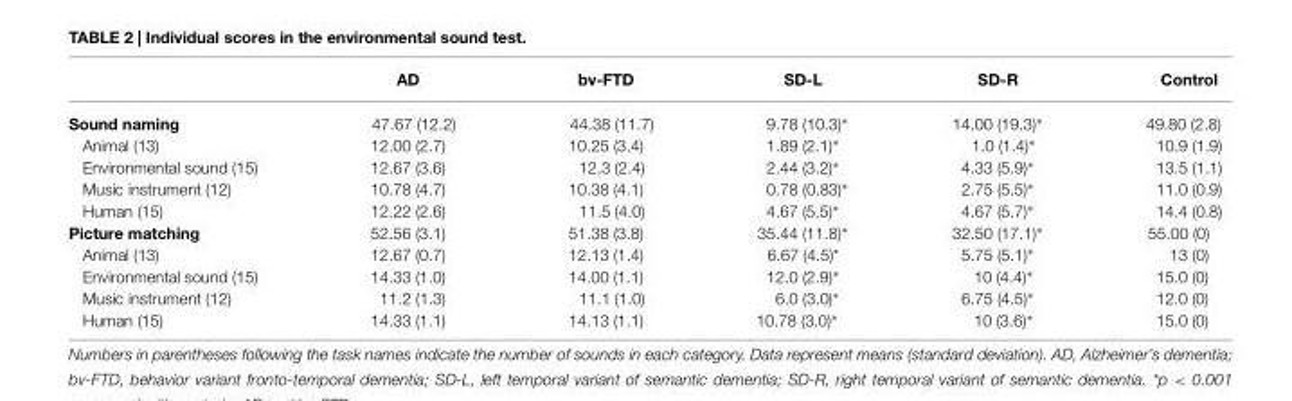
<table><thead><tr><td></td><td>AD</td><td>bv-FTD</td><td>SD-L</td><td>SD-R</td><td>Control</td></tr></thead><tbody><tr><td>Sound naming</td><td>47.67 (12.2)</td><td>44.38 (11.7)</td><td>9.78 (10.3)∗</td><td>14.00 (19.3)∗</td><td>49.80 (2.8)</td></tr><tr><td>Animal (13)</td><td>12.00 (2.7)</td><td>10.25 (3.4)</td><td>1.89 (2.1)∗</td><td>1.0 (1.4)∗</td><td>10.9 (1.9)</td></tr><tr><td>Environmental sound (15)</td><td>12.67 (3.6)</td><td>12.3 (2.4)</td><td>2.44 (3.2)∗</td><td>4.33 (5.9)∗</td><td>13.5 (1.1)</td></tr><tr><td>Music instrument (12)</td><td>10.78 (4.7)</td><td>10.38 (4.1)</td><td>0.78 (0.83)∗</td><td>2.75 (5.5)∗</td><td>11.0 (0.9)</td></tr><tr><td>Human (15)</td><td>12.22 (2.6)</td><td>11.5 (4.0)</td><td>4.67 (5.5)∗</td><td>4.67 (5.7)∗</td><td>14.4 (0.8)</td></tr><tr><td>Picture matching</td><td>52.56 (3.1)</td><td>51.38 (3.8)</td><td>35.44 (11.8)∗</td><td>32.50 (17.1)∗</td><td>55.00 (0)</td></tr><tr><td>Animal (13)</td><td>12.67 (0.7)</td><td>12.13 (1.4)</td><td>6.67 (4.5)*</td><td>5.75 (5.1)∗</td><td>13 (0)</td></tr><tr><td>Environmental sound (15)</td><td>14.33 (1.0)</td><td>14.00 (1.1)</td><td>12.0 (2.9)∗</td><td>10 (4.4)∗</td><td>15.0 (0)</td></tr><tr><td>Music instrument (12)</td><td>11.2 (1.3)</td><td>11.1 (1.0)</td><td>6.0 (3.0)∗</td><td>6.75 (4.5)∗</td><td>12.0 (0)</td></tr><tr><td>Human (15)</td><td>14.33 (1.1)</td><td>14.13 (1.1)</td><td>10.78 (3.0)∗</td><td>10 (3.6)∗</td><td>15.0 (0)</td></tr></tbody></table>